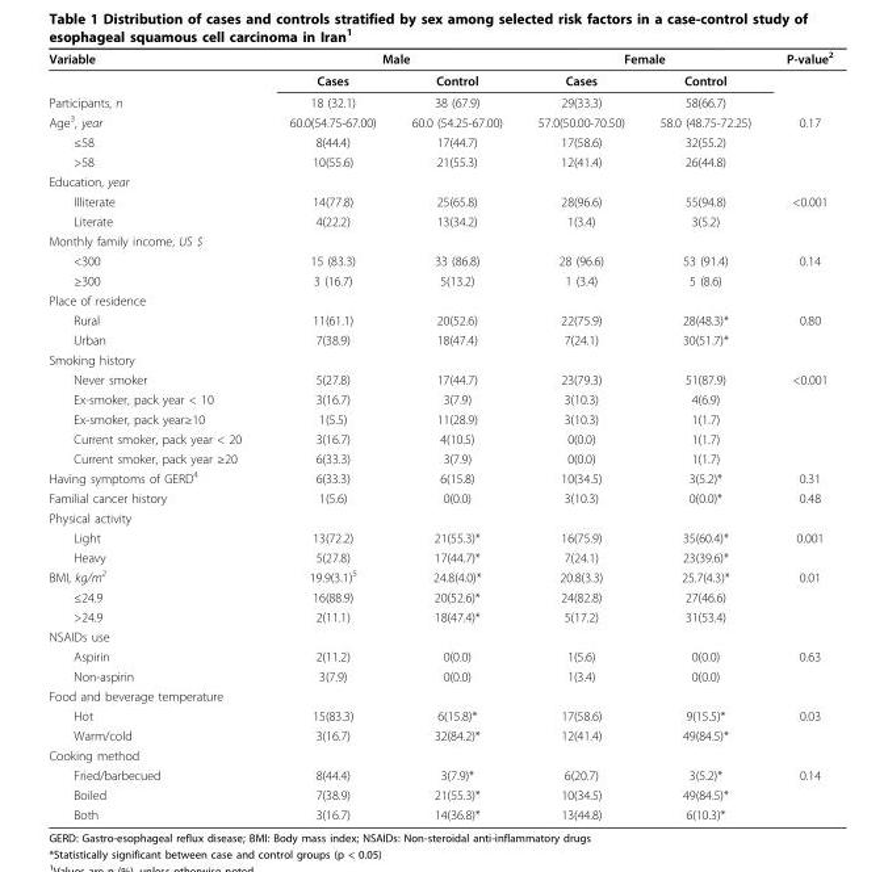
<table><thead><tr><td rowspan="2">Variable</td><td colspan="2">Male</td><td colspan="2">Female</td><td rowspan="2">P-value<sup>2</sup></td></tr><tr><td>Cases</td><td>Control</td><td>Cases</td><td>Control</td></tr></thead><tbody><tr><td>Participants, n</td><td>18 (32.1)</td><td>38 (67.9)</td><td>29(33.3)</td><td>58(66.7)</td><td></td></tr><tr><td>Age<sup>3</sup>, year</td><td>60.0(54.75-67.00)</td><td>60.0 (54.25-67.00)</td><td>57.0(50.00-70.50)</td><td>58.0 (48.75-72.25)</td><td>0.17</td></tr><tr><td>≤58</td><td>8(44.4)</td><td>17(44.7)</td><td>17(58.6)</td><td>32(55.2)</td><td></td></tr><tr><td>&gt;58</td><td>10(55.6)</td><td>21(55.3)</td><td>12(41.4)</td><td>26(44.8)</td><td></td></tr><tr><td colspan="6">Education, year</td></tr><tr><td>Illiterate</td><td>14(77.8)</td><td>25(65.8)</td><td>28(96.6)</td><td>55(94.8)</td><td>&lt;0.001</td></tr><tr><td>Literate</td><td>4(22.2)</td><td>13(34.2)</td><td>1(3.4)</td><td>3(5.2)</td><td></td></tr><tr><td colspan="6">Monthly family income, US $</td></tr><tr><td>&lt;300</td><td>15 (83.3)</td><td>33 (86.8)</td><td>28 (96.6)</td><td>53 (91.4)</td><td>0.14</td></tr><tr><td>≥300</td><td>3 (16.7)</td><td>5(13.2)</td><td>1 (3.4)</td><td>5 (8.6)</td><td></td></tr><tr><td colspan="6">Place of residence</td></tr><tr><td>Rural</td><td>11(61.1)</td><td>20(52.6)</td><td>22(75.9)</td><td>28(48.3)*</td><td>0.80</td></tr><tr><td>Urban</td><td>7(38.9)</td><td>18(47.4)</td><td>7(24.1)</td><td>30(51.7)*</td><td></td></tr><tr><td colspan="6">Smoking history</td></tr><tr><td>Never smoker</td><td>5(27.8)</td><td>17(44.7)</td><td>23(79.3)</td><td>51(87.9)</td><td>&lt;0.001</td></tr><tr><td>Ex-smoker, pack year &lt; 10</td><td>3(16.7)</td><td>3(7.9)</td><td>3(10.3)</td><td>4(6.9)</td><td></td></tr><tr><td>Ex-smoker, pack year≥10</td><td>1(5.5)</td><td>11(28.9)</td><td>3(10.3)</td><td>1(1.7)</td><td></td></tr><tr><td>Current smoker, pack year &lt; 20</td><td>3(16.7)</td><td>4(10.5)</td><td>0(0.0)</td><td>1(1.7)</td><td></td></tr><tr><td>Current smoker, pack year ≥20</td><td>6(33.3)</td><td>3(7.9)</td><td>0(0.0)</td><td>1(1.7)</td><td></td></tr><tr><td>Having symptoms of GERD<sup>4</sup></td><td>6(33.3)</td><td>6(15.8)</td><td>10(34.5)</td><td>3(5.2)*</td><td>0.31</td></tr><tr><td>Familial cancer history</td><td>1(5.6)</td><td>0(0.0)</td><td>3(10.3)</td><td>0(0.0)*</td><td>0.48</td></tr><tr><td colspan="6">Physical activity</td></tr><tr><td>Light</td><td>13(72.2)</td><td>21(55.3)*</td><td>16(75.9)</td><td>35(60.4)*</td><td>0.001</td></tr><tr><td>Heavy</td><td>5(27.8)</td><td>17(44.7)*</td><td>7(24.1)</td><td>23(39.6)*</td><td></td></tr><tr><td>BMI, kg/m<sup>2</sup></td><td>19.9(3.1)<sup>5</sup></td><td>24.8(4.0)*</td><td>20.8(3.3)</td><td>25.7(4.3)*</td><td>0.01</td></tr><tr><td>≤24.9</td><td>16(88.9)</td><td>20(52.6)*</td><td>24(82.8)</td><td>27(46.6)</td><td></td></tr><tr><td>&gt;24.9</td><td>2(11.1)</td><td>18(47.4)*</td><td>5(17.2)</td><td>31(53.4)</td><td></td></tr><tr><td colspan="6">NSAIDs use</td></tr><tr><td>Aspirin</td><td>2(11.2)</td><td>0(0.0)</td><td>1(5.6)</td><td>0(0.0)</td><td>0.63</td></tr><tr><td>Non-aspirin</td><td>3(7.9)</td><td>0(0.0)</td><td>1(3.4)</td><td>0(0.0)</td><td></td></tr><tr><td colspan="6">Food and beverage temperature</td></tr><tr><td>Hot</td><td>15(83.3)</td><td>6(15.8)*</td><td>17(58.6)</td><td>9(15.5)*</td><td>0.03</td></tr><tr><td>Warm/cold</td><td>3(16.7)</td><td>32(84.2)*</td><td>12(41.4)</td><td>49(84.5)*</td><td></td></tr><tr><td colspan="6">Cooking method</td></tr><tr><td>Fried/barbecued</td><td>8(44.4)</td><td>3(7.9)*</td><td>6(20.7)</td><td>3(5.2)*</td><td>0.14</td></tr><tr><td>Boiled</td><td>7(38.9)</td><td>21(55.3)*</td><td>10(34.5)</td><td>49(84.5)*</td><td></td></tr><tr><td>Both</td><td>3(16.7)</td><td>14(36.8)*</td><td>13(44.8)</td><td>6(10.3)*</td><td></td></tr></tbody></table>